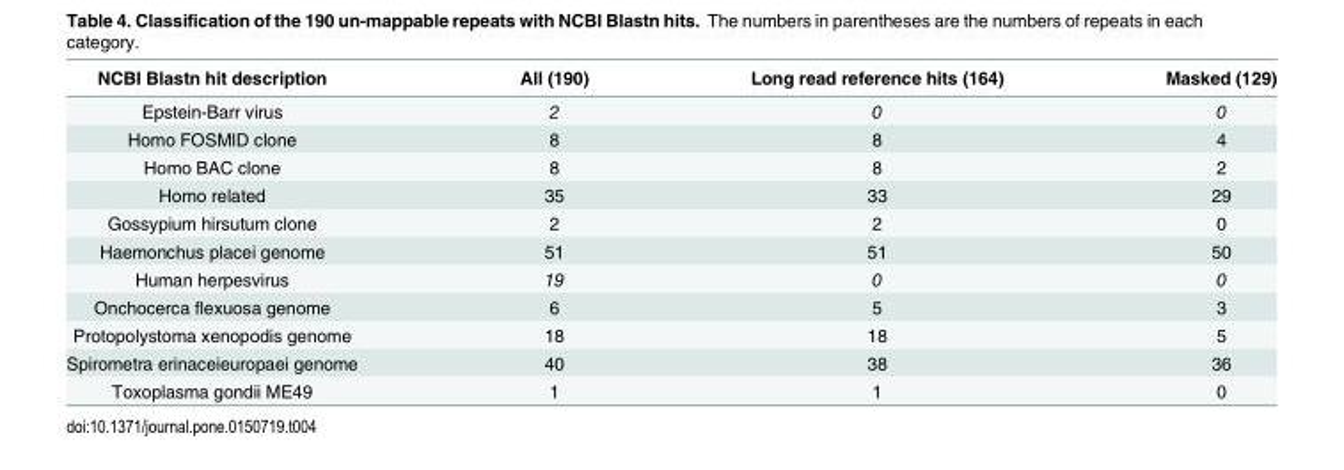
<table><thead><tr><td>NCBI Blastn hit description</td><td>All (190)</td><td>Long read reference hits (164)</td><td>Masked (129)</td></tr></thead><tbody><tr><td>Epstein-Barr virus</td><td>2</td><td>0</td><td>0</td></tr><tr><td>Homo FOSMID clone</td><td>8</td><td>8</td><td>4</td></tr><tr><td>Homo BAC clone</td><td>8</td><td>8</td><td>2</td></tr><tr><td>Homo related</td><td>35</td><td>33</td><td>29</td></tr><tr><td>Gossypium hirsutum clone</td><td>2</td><td>2</td><td>0</td></tr><tr><td>Haemonchus placei genome</td><td>51</td><td>51</td><td>50</td></tr><tr><td>Human herpesvirus</td><td>19</td><td>0</td><td>0</td></tr><tr><td>Onchocerca flexuosa genome</td><td>6</td><td>5</td><td>3</td></tr><tr><td>Protopolystoma xenopodis genome</td><td>18</td><td>18</td><td>5</td></tr><tr><td>Spirometra erinaceieuropaei genome</td><td>40</td><td>38</td><td>36</td></tr><tr><td>Toxoplasma gondii ME49</td><td>1</td><td>1</td><td>0</td></tr></tbody></table>